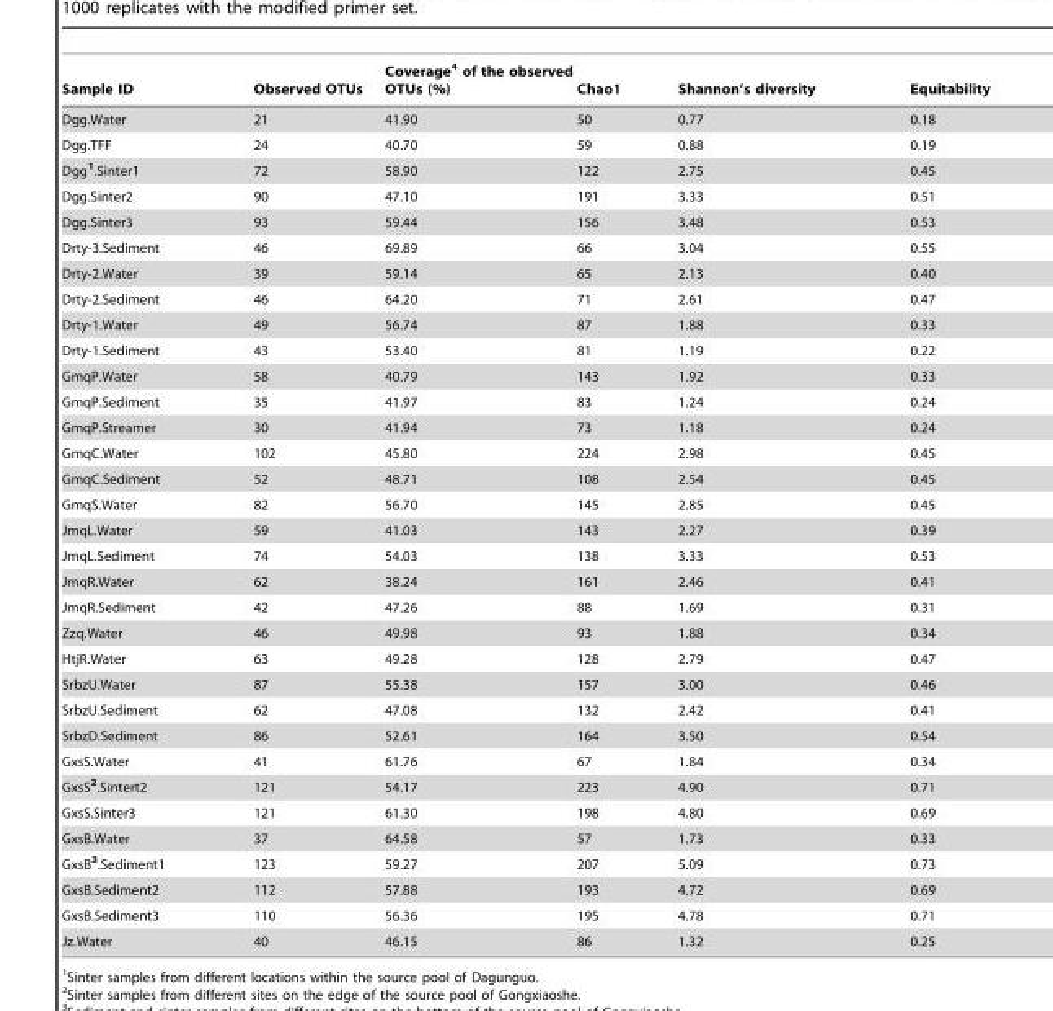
<table><thead><tr><td>Sample ID</td><td>Observed OTUs</td><td>Coverage<sup>4</sup> of the observed OTUs (%)</td><td>Chao1</td><td>Shannon’s diversity</td><td>Equitability</td></tr></thead><tbody><tr><td>Dgg.Water</td><td>21</td><td>41.90</td><td>50</td><td>0.77</td><td>0.18</td></tr><tr><td>Dgg.TFF</td><td>24</td><td>40.70</td><td>59</td><td>0.88</td><td>0.19</td></tr><tr><td>Dgg<sup>1</sup>.Sinter1</td><td>72</td><td>58.90</td><td>122</td><td>2.75</td><td>0.45</td></tr><tr><td>Dgg.Sinter2</td><td>90</td><td>47.10</td><td>191</td><td>3.33</td><td>0.51</td></tr><tr><td>Dgg.Sinter3</td><td>93</td><td>59.44</td><td>156</td><td>3.48</td><td>0.53</td></tr><tr><td>Drty-3.Sediment</td><td>46</td><td>69.89</td><td>66</td><td>3.04</td><td>0.55</td></tr><tr><td>Drty-2.Water</td><td>39</td><td>59.14</td><td>65</td><td>2.13</td><td>0.40</td></tr><tr><td>Drty-2.Sediment</td><td>46</td><td>64.20</td><td>71</td><td>2.61</td><td>0.47</td></tr><tr><td>Drty-1.Water</td><td>49</td><td>56.74</td><td>87</td><td>1.88</td><td>0.33</td></tr><tr><td>Drty-1.Sediment</td><td>43</td><td>53.40</td><td>81</td><td>1.19</td><td>0.22</td></tr><tr><td>GmqP.Water</td><td>58</td><td>40.79</td><td>143</td><td>1.92</td><td>0.33</td></tr><tr><td>GmqP.Sediment</td><td>35</td><td>41.97</td><td>83</td><td>1.24</td><td>0.24</td></tr><tr><td>GmqP.Streamer</td><td>30</td><td>41.94</td><td>73</td><td>1.18</td><td>0.24</td></tr><tr><td>GmqC.Water</td><td>102</td><td>45.80</td><td>224</td><td>2.98</td><td>0.45</td></tr><tr><td>GmqC.Sediment</td><td>52</td><td>48.71</td><td>108</td><td>2.54</td><td>0.45</td></tr><tr><td>GmqS.Water</td><td>82</td><td>56.70</td><td>145</td><td>2.85</td><td>0.45</td></tr><tr><td>JmqL.Water</td><td>59</td><td>41.03</td><td>143</td><td>2.27</td><td>0.39</td></tr><tr><td>JmqL.Sediment</td><td>74</td><td>54.03</td><td>138</td><td>3.33</td><td>0.53</td></tr><tr><td>JmqR.Water</td><td>62</td><td>38.24</td><td>161</td><td>2.46</td><td>0.41</td></tr><tr><td>JmqR.Sediment</td><td>42</td><td>47.26</td><td>88</td><td>1.69</td><td>0.31</td></tr><tr><td>Zzq.Water</td><td>46</td><td>49.98</td><td>93</td><td>1.88</td><td>0.34</td></tr><tr><td>HtjR.Water</td><td>63</td><td>49.28</td><td>128</td><td>2.79</td><td>0.47</td></tr><tr><td>SrbzU.Water</td><td>87</td><td>55.38</td><td>157</td><td>3.00</td><td>0.46</td></tr><tr><td>SrbzU.Sediment</td><td>62</td><td>47.08</td><td>132</td><td>2.42</td><td>0.41</td></tr><tr><td>SrbzD.Sediment</td><td>86</td><td>52.61</td><td>164</td><td>3.50</td><td>0.54</td></tr><tr><td>GxsS.Water</td><td>41</td><td>61.76</td><td>67</td><td>1.84</td><td>0.34</td></tr><tr><td>GxsS<sup>2</sup>.Sintert2</td><td>121</td><td>54.17</td><td>223</td><td>4.90</td><td>0.71</td></tr><tr><td>GxsS.Sinter3</td><td>121</td><td>61.30</td><td>198</td><td>4.80</td><td>0.69</td></tr><tr><td>GxsB.Water</td><td>37</td><td>64.58</td><td>57</td><td>1.73</td><td>0.33</td></tr><tr><td>GxsB<sup>3</sup>.Sediment1</td><td>123</td><td>59.27</td><td>207</td><td>5.09</td><td>0.73</td></tr><tr><td>GxsB.Sediment2</td><td>112</td><td>57.88</td><td>193</td><td>4.72</td><td>0.69</td></tr><tr><td>GxsB.Sediment3</td><td>110</td><td>56.36</td><td>195</td><td>4.78</td><td>0.71</td></tr><tr><td>Jz.Water</td><td>40</td><td>46.15</td><td>86</td><td>1.32</td><td>0.25</td></tr></tbody></table>